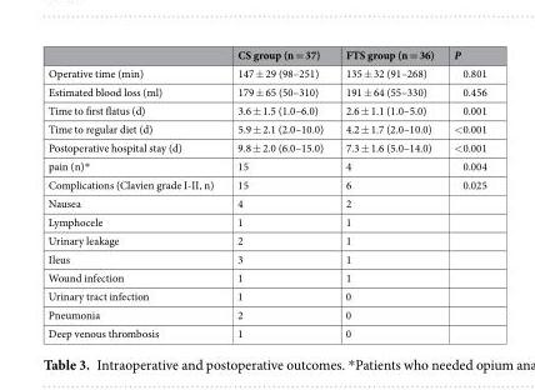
<table><thead><tr><td></td><td>CS group (n = 37)</td><td>FTS group (n = 36)</td><td>P</td></tr></thead><tbody><tr><td>Operative time (min)</td><td>147 ± 29 (98–251)</td><td>135 ± 32 (91–268)</td><td>0.801</td></tr><tr><td>Estimated blood loss (ml)</td><td>179 ± 65 (50–310)</td><td>191 ± 64 (55–330)</td><td>0.456</td></tr><tr><td>Time to first flatus (d)</td><td>3.6 ± 1.5 (1.0–6.0)</td><td>2.6 ± 1.1 (1.0–5.0)</td><td>0.001</td></tr><tr><td>Time to regular diet (d)</td><td>5.9 ± 2.1 (2.0–10.0)</td><td>4.2 ± 1.7 (2.0–10.0)</td><td>&lt;0.001</td></tr><tr><td>Postoperative hospital stay (d)</td><td>9.8 ± 2.0 (6.0–15.0)</td><td>7.3 ± 1.6 (5.0–14.0)</td><td>&lt;0.001</td></tr><tr><td>pain (n)*</td><td>15</td><td>4</td><td>0.004</td></tr><tr><td>Complications (Clavien grade I-II, n)</td><td>15</td><td>6</td><td>0.025</td></tr><tr><td>Nausea</td><td>4</td><td>2</td><td></td></tr><tr><td>Lymphocele</td><td>1</td><td>1</td><td></td></tr><tr><td>Urinary leakage</td><td>2</td><td>1</td><td></td></tr><tr><td>Ileus</td><td>3</td><td>1</td><td></td></tr><tr><td>Wound infection</td><td>1</td><td>1</td><td></td></tr><tr><td>Urinary tract infection</td><td>1</td><td>0</td><td></td></tr><tr><td>Pneumonia</td><td>2</td><td>0</td><td></td></tr><tr><td>Deep venous thrombosis</td><td>1</td><td>0</td><td></td></tr></tbody></table>